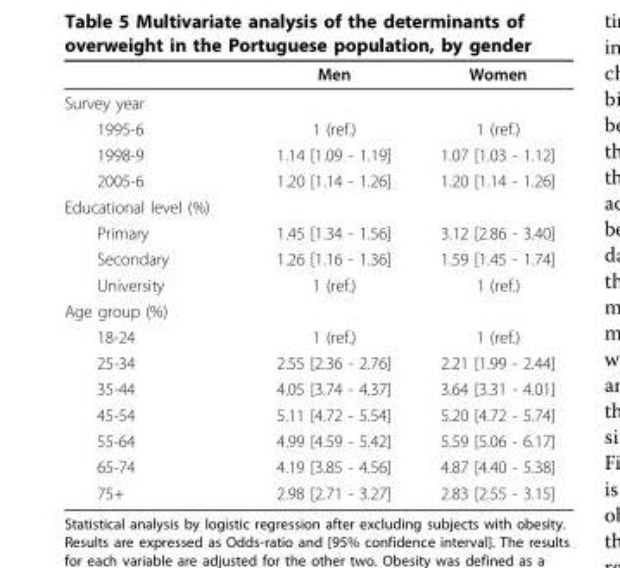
<table><thead><tr><td></td><td>Men</td><td>Women</td></tr></thead><tbody><tr><td colspan="3">Survey year</td></tr><tr><td>1995-6</td><td>1 (ref.)</td><td>1 (ref.)</td></tr><tr><td>1998-9</td><td>1.14 [1.09 - 1.19]</td><td>1.07 [1.03 - 1.12]</td></tr><tr><td>2005-6</td><td>1.20 [1.14 - 1.26]</td><td>1.20 [1.14 - 1.26]</td></tr><tr><td colspan="3">Educational level (%)</td></tr><tr><td>Primary</td><td>1.45 [1.34 - 1.56]</td><td>3.12 [2.86 - 3.40]</td></tr><tr><td>Secondary</td><td>1.26 [1.16 - 1.36]</td><td>1.59 [1.45 - 1.74]</td></tr><tr><td>University</td><td>1 (ref.)</td><td>1 (ref.)</td></tr><tr><td colspan="3">Age group (%)</td></tr><tr><td>18-24</td><td>1 (ref.)</td><td>1 (ref.)</td></tr><tr><td>25-34</td><td>2.55 [2.36 - 2.76]</td><td>2.21 [1.99 - 2.44]</td></tr><tr><td>35-44</td><td>4.05 [3.74 - 4.37]</td><td>3.64 [3.31 - 4.01]</td></tr><tr><td>45-54</td><td>5.11 [4.72 - 5.54]</td><td>5.20 [4.72 - 5.74]</td></tr><tr><td>55-64</td><td>4.99 [4.59 - 5.42]</td><td>5.59 [5.06 - 6.17]</td></tr><tr><td>65-74</td><td>4.19 [3.85 - 4.56]</td><td>4.87 [4.40 - 5.38]</td></tr><tr><td>75+</td><td>2.98 [2.71 - 3.27]</td><td>2.83 [2.55 - 3.15]</td></tr></tbody></table>